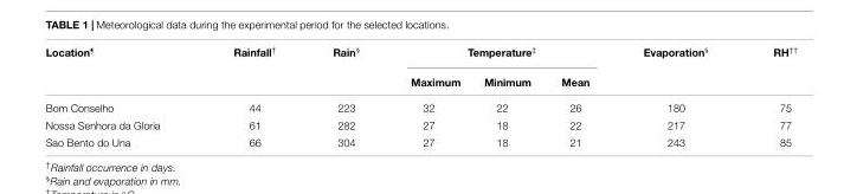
<table><thead><tr><td rowspan="2">Location<sup>¶</sup></td><td rowspan="2">Rainfall<sup>†</sup></td><td rowspan="2">Rain<sup>§</sup></td><td colspan="3">Temperature<sup>‡</sup></td><td rowspan="2">Evaporation<sup>§</sup></td><td rowspan="2">RH<sup>††</sup></td></tr><tr><td>Maximum</td><td>Minimum</td><td>Mean</td></tr></thead><tbody><tr><td>Bom Conselho</td><td>44</td><td>223</td><td>32</td><td>22</td><td>26</td><td>180</td><td>75</td></tr><tr><td>Nossa Senhora da Gloria</td><td>61</td><td>282</td><td>27</td><td>18</td><td>22</td><td>217</td><td>77</td></tr><tr><td>Sao Bento do Una</td><td>66</td><td>304</td><td>27</td><td>18</td><td>21</td><td>243</td><td>85</td></tr></tbody></table>